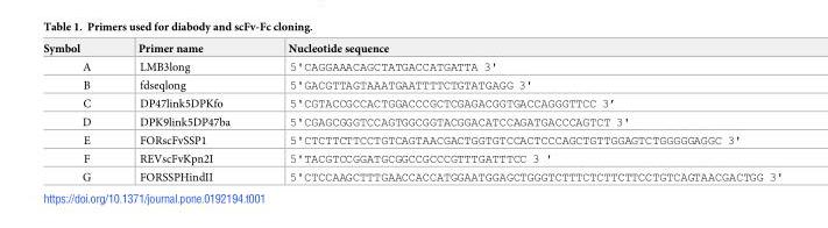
<table><thead><tr><td>Symbol</td><td>Primer name</td><td>Nucleotide sequence</td></tr></thead><tbody><tr><td>A</td><td>LMB3long</td><td>5&#x27;CAGGAAACAGCTATGACCATGATTA 3&#x27;</td></tr><tr><td>B</td><td>fdseqlong</td><td>5&#x27;GACGTTAGTAAATGAATTTTCTGTATGAGG 3&#x27;</td></tr><tr><td>C</td><td>DP47link5DPKfo</td><td>5&#x27;CGTACCGCCACTGGACCCGCTCGAGACGGTGACCAGGGTTCC 3’</td></tr><tr><td>D</td><td>DPK9link5DP47ba</td><td>5&#x27;CGAGCGGGTCCAGTGGCGGTACGGACATCCAGATGACCCAGTCT 3&#x27;</td></tr><tr><td>E</td><td>FORscFvSSP1</td><td>5&#x27;CTCTTCTTCCTGTCAGTAACGACTGGTGTCCACTCCCAGCTGTTGGAGTCTGGGGGAGGC 3&#x27;</td></tr><tr><td>F</td><td>REVscFvKpn2I</td><td>5&#x27;TACGTCCGGATGCGGCCGCCCGTTTGATTTCC 3 &#x27;</td></tr><tr><td>G</td><td>FORSSPHindII</td><td>5&#x27;CTCCAAGCTTTGAACCACCATGGAATGGAGCTGGGTCTTTCTCTTCTTCCTGTCAGTAACGACTGG 3&#x27;</td></tr></tbody></table>